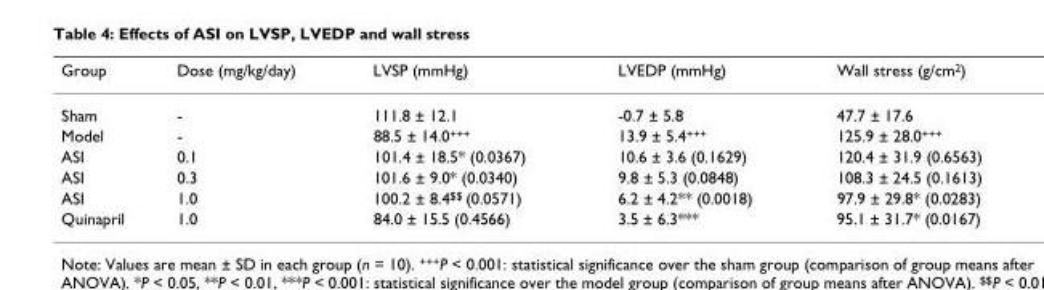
<table><thead><tr><td>Group</td><td>Dose (mg/kg/day)</td><td>LVSP (mmHg)</td><td>LVEDP (mmHg)</td><td>Wall stress (g/cm<sup>2</sup>)</td></tr></thead><tbody><tr><td>Sham</td><td>-</td><td>111.8 ± 12.1</td><td>-0.7 ± 5.8</td><td>47.7 ± 17.6</td></tr><tr><td>Model</td><td>-</td><td>88.5 ± 14.0<sup>+++</sup></td><td>13.9 ± 5.4<sup>+++</sup></td><td>125.9 ± 28.0<sup>+++</sup></td></tr><tr><td>ASI</td><td>0.1</td><td>101.4 ± 18.5* (0.0367)</td><td>10.6 ± 3.6 (0.1629)</td><td>120.4 ± 31.9 (0.6563)</td></tr><tr><td>ASI</td><td>0.3</td><td>101.6 ± 9.0* (0.0340)</td><td>9.8 ± 5.3 (0.0848)</td><td>108.3 ± 24.5 (0.1613)</td></tr><tr><td>ASI</td><td>1.0</td><td>100.2 ± 8.4<sup>$$</sup> (0.0571)</td><td>6.2 ± 4.2** (0.0018)</td><td>97.9 ± 29.8* (0.0283)</td></tr><tr><td>Quinapril</td><td>1.0</td><td>84.0 ± 15.5 (0.4566)</td><td>3.5 ± 6.3***</td><td>95.1 ± 31.7* (0.0167)</td></tr></tbody></table>